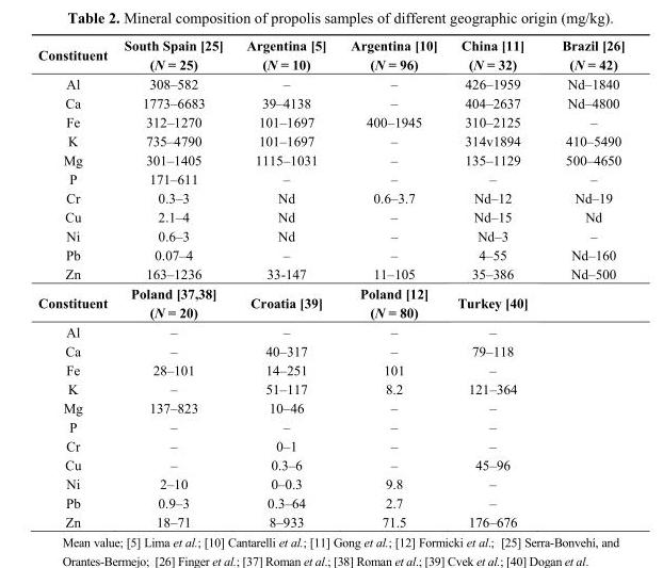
<table><thead><tr><td>Constituent</td><td>South Spain [25] (N = 25)</td><td>Argentina [5] (N = 10)</td><td>Argentina [10] (N = 96)</td><td>China [11] (N = 32)</td><td>Brazil [26] (N = 42)</td></tr></thead><tbody><tr><td>Al</td><td>308–582</td><td>–</td><td>–</td><td>426–1959</td><td>Nd–1840</td></tr><tr><td>Ca</td><td>1773–6683</td><td>39–4138</td><td>–</td><td>404–2637</td><td>Nd–4800</td></tr><tr><td>Fe</td><td>312–1270</td><td>101–1697</td><td>400–1945</td><td>310–2125</td><td>–</td></tr><tr><td>K</td><td>735–4790</td><td>101–1697</td><td>–</td><td>314v1894</td><td>410–5490</td></tr><tr><td>Mg</td><td>301–1405</td><td>1115–1031</td><td>–</td><td>135–1129</td><td>500–4650</td></tr><tr><td>P</td><td>171–611</td><td>–</td><td>–</td><td>–</td><td>–</td></tr><tr><td>Cr</td><td>0.3–3</td><td>Nd</td><td>0.6–3.7</td><td>Nd–12</td><td>Nd–19</td></tr><tr><td>Cu</td><td>2.1–4</td><td>Nd</td><td>–</td><td>Nd–15</td><td>Nd</td></tr><tr><td>Ni</td><td>0.6–3</td><td>Nd</td><td>–</td><td>Nd–3</td><td>–</td></tr><tr><td>Pb</td><td>0.07–4</td><td>–</td><td>–</td><td>4–55</td><td>Nd–160</td></tr><tr><td>Zn</td><td>163–1236</td><td>33-147</td><td>11–105</td><td>35–386</td><td>Nd–500</td></tr><tr><td>Constituent</td><td>Poland [37,38] (N = 20)</td><td>Croatia [39]</td><td>Poland [12] (N = 80)</td><td>Turkey [40]</td><td></td></tr><tr><td>Al</td><td>–</td><td>–</td><td>–</td><td>–</td><td></td></tr><tr><td>Ca</td><td>–</td><td>40–317</td><td>–</td><td>79–118</td><td></td></tr><tr><td>Fe</td><td>28–101</td><td>14–251</td><td>101</td><td>–</td><td></td></tr><tr><td>K</td><td>–</td><td>51–117</td><td>8.2</td><td>121–364</td><td></td></tr><tr><td>Mg</td><td>137–823</td><td>10–46</td><td>–</td><td>–</td><td></td></tr><tr><td>P</td><td>–</td><td>–</td><td>–</td><td>–</td><td></td></tr><tr><td>Cr</td><td>–</td><td>0–1</td><td>–</td><td>–</td><td></td></tr><tr><td>Cu</td><td>–</td><td>0.3–6</td><td>–</td><td>45–96</td><td></td></tr><tr><td>Ni</td><td>2–10</td><td>0–0.3</td><td>9.8</td><td>–</td><td></td></tr><tr><td>Pb</td><td>0.9–3</td><td>0.3–64</td><td>2.7</td><td>–</td><td></td></tr><tr><td>Zn</td><td>18–71</td><td>8–933</td><td>71.5</td><td>176–676</td><td></td></tr></tbody></table>